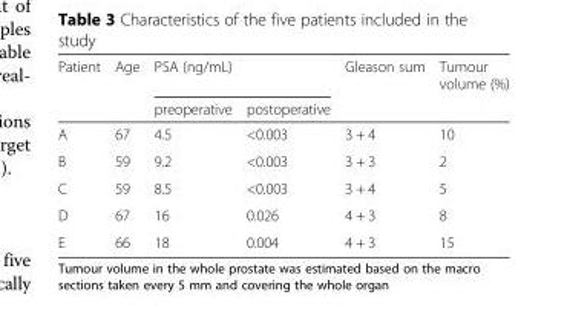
<table><thead><tr><td rowspan="2">Patient</td><td rowspan="2">Age</td><td colspan="2">PSA (ng/mL)</td><td rowspan="2">Gleason sum</td><td rowspan="2">Tumour volume (%)</td></tr><tr><td>preoperative</td><td>postoperative</td></tr></thead><tbody><tr><td>A</td><td>67</td><td>4.5</td><td>&lt;0.003</td><td>3 + 4</td><td>10</td></tr><tr><td>B</td><td>59</td><td>9.2</td><td>&lt;0.003</td><td>3 + 3</td><td>2</td></tr><tr><td>C</td><td>59</td><td>8.5</td><td>&lt;0.003</td><td>3 + 4</td><td>5</td></tr><tr><td>D</td><td>67</td><td>16</td><td>0.026</td><td>4 + 3</td><td>8</td></tr><tr><td>E</td><td>66</td><td>18</td><td>0.004</td><td>4 + 3</td><td>15</td></tr></tbody></table>